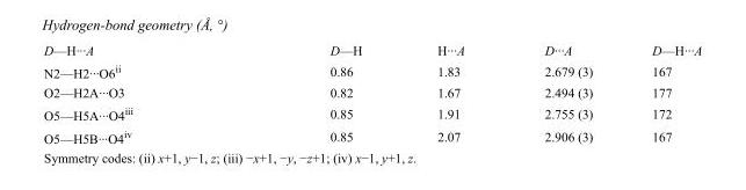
<table><tbody><tr><td>D—H···A</td><td>D—H</td><td>H···A</td><td>D···A</td><td>D—H···A</td></tr><tr><td>N2—H2···O6<sup>ii</sup></td><td>0.86</td><td>1.83</td><td>2.679 (3)</td><td>167</td></tr><tr><td>O2—H2A···O3</td><td>0.82</td><td>1.67</td><td>2.494 (3)</td><td>177</td></tr><tr><td>O5—H5A···O4<sup>iii</sup></td><td>0.85</td><td>1.91</td><td>2.755 (3)</td><td>172</td></tr><tr><td>O5—H5B···O4<sup>iv</sup></td><td>0.85</td><td>2.07</td><td>2.906 (3)</td><td>167</td></tr></tbody></table>